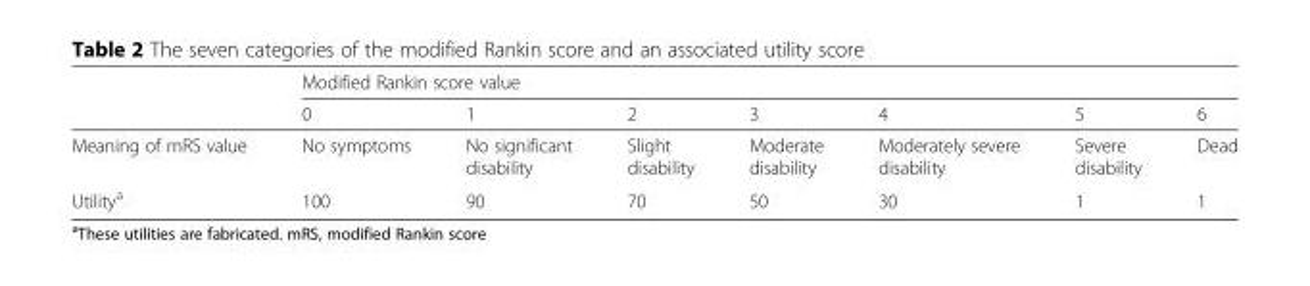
<table><thead><tr><td rowspan="2"></td><td colspan="7">Modified Rankin score value</td></tr><tr><td>0</td><td>1</td><td>2</td><td>3</td><td>4</td><td>5</td><td>6</td></tr></thead><tbody><tr><td>Meaning of mRS value</td><td>No symptoms</td><td>No significant disability</td><td>Slight disability</td><td>Moderate disability</td><td>Moderately severe disability</td><td>Severe disability</td><td>Dead</td></tr><tr><td>Utility<sup>a</sup></td><td>100</td><td>90</td><td>70</td><td>50</td><td>30</td><td>1</td><td>1</td></tr></tbody></table>